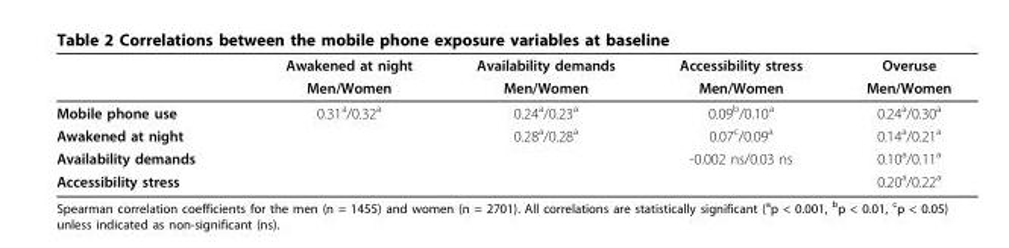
<table><thead><tr><td rowspan="2"></td><td rowspan="2">Awakened at night Men/Women</td><td rowspan="2">Availability demands Men/Women</td><td rowspan="2">Accessibility stress Men/Women</td><td rowspan="2">Overuse Men/Women</td></tr><tr></tr></thead><tbody><tr><td>Mobile phone use</td><td>0.31<sup>a</sup>/0.32<sup>a</sup></td><td>0.24<sup>a</sup>/0.23<sup>a</sup></td><td>0.09<sup>b</sup>/0.10<sup>a</sup></td><td>0.24<sup>a</sup>/0.30<sup>a</sup></td></tr><tr><td>Awakened at night</td><td></td><td>0.28<sup>a</sup>/0.28<sup>a</sup></td><td>0.07<sup>c</sup>/0.09<sup>a</sup></td><td>0.14<sup>a</sup>/0.21<sup>a</sup></td></tr><tr><td>Availability demands</td><td></td><td></td><td>-0.002 ns/0.03 ns</td><td>0.10<sup>a</sup>/0.11<sup>a</sup></td></tr><tr><td>Accessibility stress</td><td></td><td></td><td></td><td>0.20<sup>a</sup>/0.22<sup>a</sup></td></tr></tbody></table>